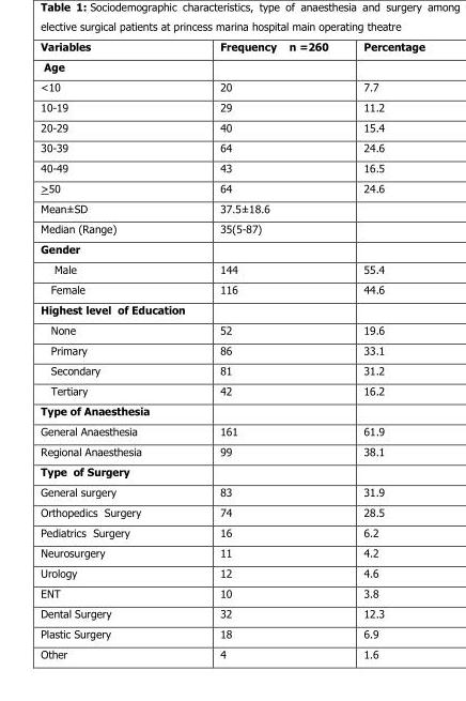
<table><thead><tr><td>Variables</td><td>Frequency n =260</td><td>Percentage</td></tr></thead><tbody><tr><td colspan="3">Age</td></tr><tr><td>&lt;10</td><td>20</td><td>7.7</td></tr><tr><td>10-19</td><td>29</td><td>11.2</td></tr><tr><td>20-29</td><td>40</td><td>15.4</td></tr><tr><td>30-39</td><td>64</td><td>24.6</td></tr><tr><td>40-49</td><td>43</td><td>16.5</td></tr><tr><td>&gt;50</td><td>64</td><td>24.6</td></tr><tr><td>Mean±SD</td><td>37.5±18.6</td><td></td></tr><tr><td>Median (Range)</td><td>35(5-87)</td><td></td></tr><tr><td colspan="3">Gender</td></tr><tr><td>Male</td><td>144</td><td>55.4</td></tr><tr><td>Female</td><td>116</td><td>44.6</td></tr><tr><td colspan="3">Highest level of Education</td></tr><tr><td>None</td><td>52</td><td>19.6</td></tr><tr><td>Primary</td><td>86</td><td>33.1</td></tr><tr><td>Secondary</td><td>81</td><td>31.2</td></tr><tr><td>Tertiary</td><td>42</td><td>16.2</td></tr><tr><td colspan="3">Type of Anaesthesia</td></tr><tr><td>General Anaesthesia</td><td>161</td><td>61.9</td></tr><tr><td>Regional Anaesthesia</td><td>99</td><td>38.1</td></tr><tr><td colspan="3">Type of Surgery</td></tr><tr><td>General surgery</td><td>83</td><td>31.9</td></tr><tr><td>Orthopedics Surgery</td><td>74</td><td>28.5</td></tr><tr><td>Pediatrics Surgery</td><td>16</td><td>6.2</td></tr><tr><td>Neurosurgery</td><td>11</td><td>4.2</td></tr><tr><td>Urology</td><td>12</td><td>4.6</td></tr><tr><td>ENT</td><td>10</td><td>3.8</td></tr><tr><td>Dental Surgery</td><td>32</td><td>12.3</td></tr><tr><td>Plastic Surgery</td><td>18</td><td>6.9</td></tr><tr><td>Other</td><td>4</td><td>1.6</td></tr></tbody></table>